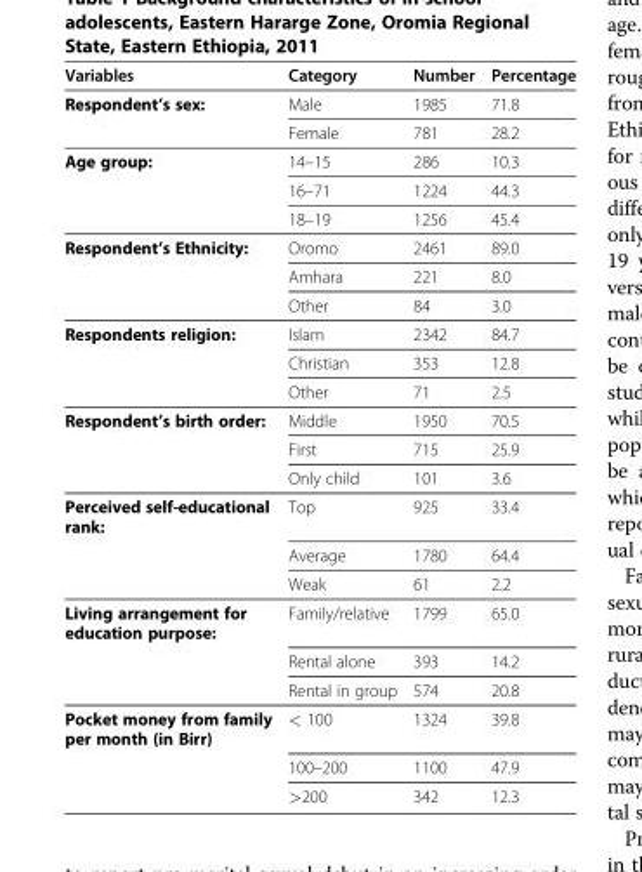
<table><thead><tr><td>Variables</td><td>Category</td><td>Number</td><td>Percentage</td></tr></thead><tbody><tr><td rowspan="2">Respondent’s sex:</td><td>Male</td><td>1985</td><td>71.8</td></tr><tr><td>Female</td><td>781</td><td>28.2</td></tr><tr><td rowspan="3">Age group:</td><td>14–15</td><td>286</td><td>10.3</td></tr><tr><td>16–71</td><td>1224</td><td>44.3</td></tr><tr><td>18–19</td><td>1256</td><td>45.4</td></tr><tr><td rowspan="3">Respondent’s Ethnicity:</td><td>Oromo</td><td>2461</td><td>89.0</td></tr><tr><td>Amhara</td><td>221</td><td>8.0</td></tr><tr><td>Other</td><td>84</td><td>3.0</td></tr><tr><td rowspan="3">Respondents religion:</td><td>Islam</td><td>2342</td><td>84.7</td></tr><tr><td>Christian</td><td>353</td><td>12.8</td></tr><tr><td>Other</td><td>71</td><td>2.5</td></tr><tr><td rowspan="3">Respondent’s birth order:</td><td>Middle</td><td>1950</td><td>70.5</td></tr><tr><td>First</td><td>715</td><td>25.9</td></tr><tr><td>Only child</td><td>101</td><td>3.6</td></tr><tr><td rowspan="3">Perceived self-educational rank:</td><td>Top</td><td>925</td><td>33.4</td></tr><tr><td>Average</td><td>1780</td><td>64.4</td></tr><tr><td>Weak</td><td>61</td><td>2.2</td></tr><tr><td rowspan="3">Living arrangement for education purpose:</td><td>Family/relative</td><td>1799</td><td>65.0</td></tr><tr><td>Rental alone</td><td>393</td><td>14.2</td></tr><tr><td>Rental in group</td><td>574</td><td>20.8</td></tr><tr><td rowspan="3">Pocket money from family per month (in Birr)</td><td>&lt; 100</td><td>1324</td><td>39.8</td></tr><tr><td>100–200</td><td>1100</td><td>47.9</td></tr><tr><td>&gt;200</td><td>342</td><td>12.3</td></tr></tbody></table>